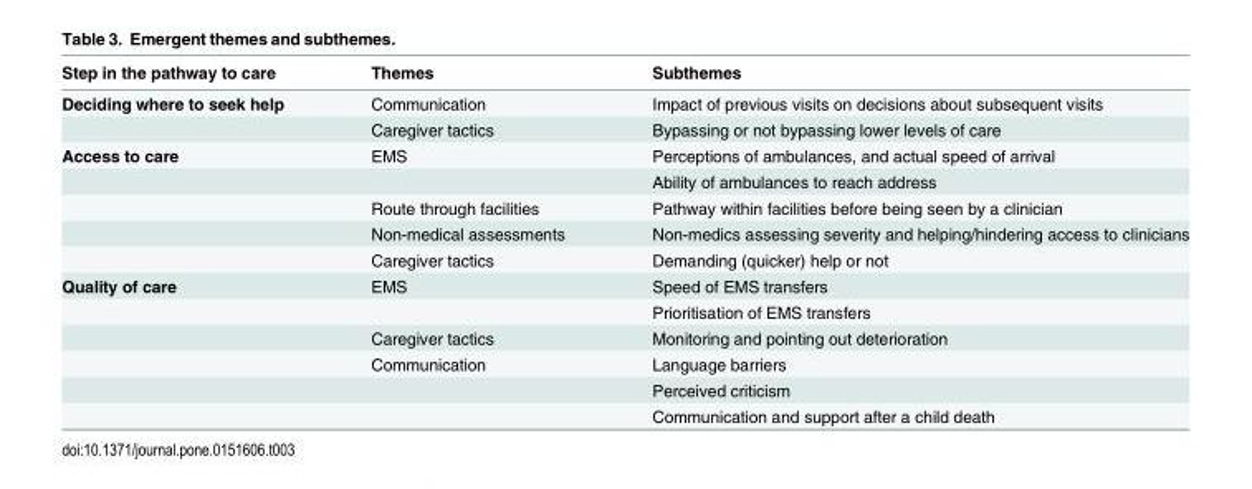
<table><thead><tr><td>Step in the pathway to care</td><td>Themes</td><td>Subthemes</td></tr></thead><tbody><tr><td rowspan="2">Deciding where to seek help</td><td>Communication</td><td>Impact of previous visits on decisions about subsequent visits</td></tr><tr><td>Caregiver tactics</td><td>Bypassing or not bypassing lower levels of care</td></tr><tr><td rowspan="5">Access to care</td><td>EMS</td><td>Perceptions of ambulances, and actual speed of arrival</td></tr><tr><td></td><td>Ability of ambulances to reach address</td></tr><tr><td>Route through facilities</td><td>Pathway within facilities before being seen by a clinician</td></tr><tr><td>Non-medical assessments</td><td>Non-medics assessing severity and helping/hindering access to clinicians</td></tr><tr><td>Caregiver tactics</td><td>Demanding (quicker) help or not</td></tr><tr><td rowspan="6">Quality of care</td><td>EMS</td><td>Speed of EMS transfers</td></tr><tr><td></td><td>Prioritisation of EMS transfers</td></tr><tr><td>Caregiver tactics</td><td>Monitoring and pointing out deterioration</td></tr><tr><td>Communication</td><td>Language barriers</td></tr><tr><td></td><td>Perceived criticism</td></tr><tr><td></td><td>Communication and support after a child death</td></tr></tbody></table>